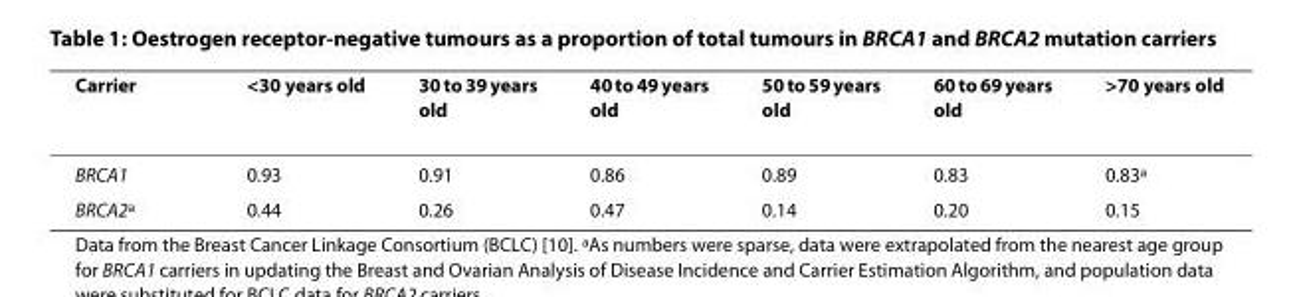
<table><thead><tr><td>Carrier</td><td>&lt;30 years old</td><td>30 to 39 years old</td><td>40 to 49 years old</td><td>50 to 59 years old</td><td>60 to 69 years old</td><td>&gt;70 years old</td></tr></thead><tbody><tr><td>BRCA1</td><td>0.93</td><td>0.91</td><td>0.86</td><td>0.89</td><td>0.83</td><td>0.83<sup>a</sup></td></tr><tr><td>BRCA2<sup>a</sup></td><td>0.44</td><td>0.26</td><td>0.47</td><td>0.14</td><td>0.20</td><td>0.15</td></tr></tbody></table>